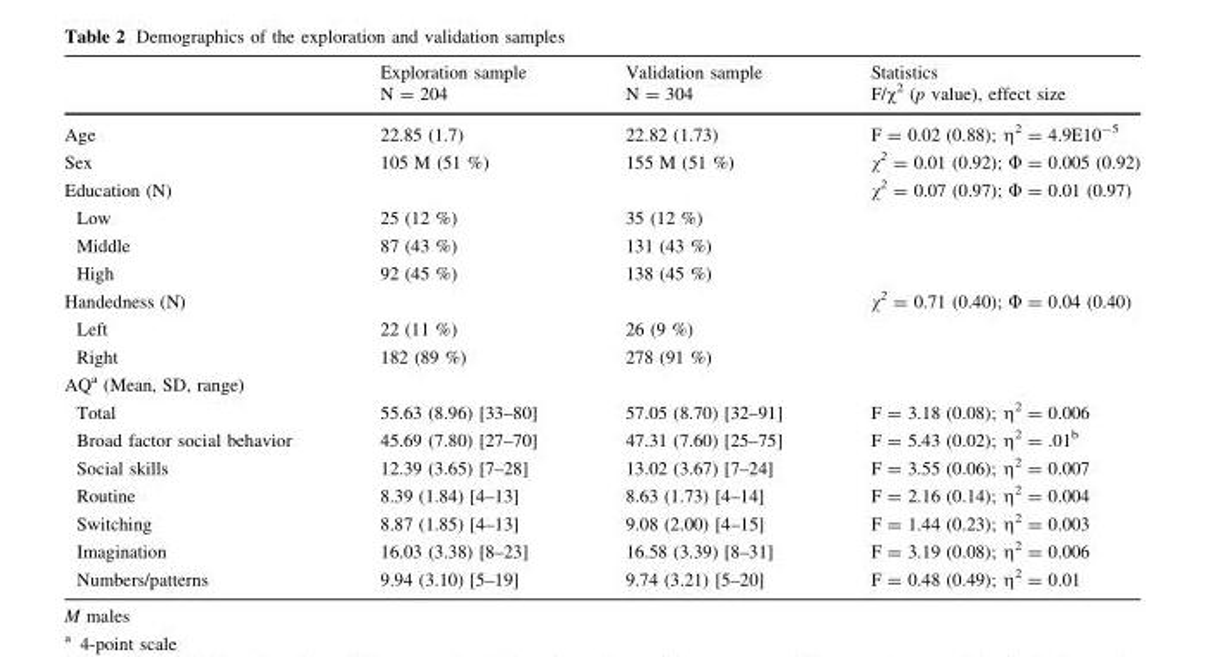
<table><thead><tr><td rowspan="2"></td><td rowspan="2">Exploration sample N = 204</td><td rowspan="2">Validation sample N = 304</td><td rowspan="2">Statistics F/χ<sup>2</sup> (p value), effect size</td></tr><tr></tr></thead><tbody><tr><td>Age</td><td>22.85 (1.7)</td><td>22.82 (1.73)</td><td>F = 0.02 (0.88); η<sup>2</sup> = 4.9E10<sup>-5</sup></td></tr><tr><td>Sex</td><td>105 M (51 %)</td><td>155 M (51 %)</td><td>χ<sup>2</sup> = 0.01 (0.92); Φ = 0.005 (0.92)</td></tr><tr><td>Education (N)</td><td></td><td></td><td>χ<sup>2</sup> = 0.07 (0.97); Φ = 0.01 (0.97)</td></tr><tr><td>Low</td><td>25 (12 %)</td><td>35 (12 %)</td><td></td></tr><tr><td>Middle</td><td>87 (43 %)</td><td>131 (43 %)</td><td></td></tr><tr><td>High</td><td>92 (45 %)</td><td>138 (45 %)</td><td></td></tr><tr><td>Handedness (N)</td><td></td><td></td><td>χ<sup>2</sup> = 0.71 (0.40); Φ = 0.04 (0.40)</td></tr><tr><td>Left</td><td>22 (11 %)</td><td>26 (9 %)</td><td></td></tr><tr><td>Right</td><td>182 (89 %)</td><td>278 (91 %)</td><td></td></tr><tr><td colspan="4">AQ<sup>a</sup> (Mean, SD, range)</td></tr><tr><td>Total</td><td>55.63 (8.96) [33–80]</td><td>57.05 (8.70) [32–91]</td><td>F = 3.18 (0.08); η<sup>2</sup> = 0.006</td></tr><tr><td>Broad factor social behavior</td><td>45.69 (7.80) [27–70]</td><td>47.31 (7.60) [25–75]</td><td>F = 5.43 (0.02); η<sup>2</sup> = .01<sup>b</sup></td></tr><tr><td>Social skills</td><td>12.39 (3.65) [7–28]</td><td>13.02 (3.67) [7–24]</td><td>F = 3.55 (0.06); η<sup>2</sup> = 0.007</td></tr><tr><td>Routine</td><td>8.39 (1.84) [4–13]</td><td>8.63 (1.73) [4–14]</td><td>F = 2.16 (0.14); η<sup>2</sup> = 0.004</td></tr><tr><td>Switching</td><td>8.87 (1.85) [4–13]</td><td>9.08 (2.00) [4–15]</td><td>F = 1.44 (0.23); η<sup>2</sup> = 0.003</td></tr><tr><td>Imagination</td><td>16.03 (3.38) [8–23]</td><td>16.58 (3.39) [8–31]</td><td>F = 3.19 (0.08); η<sup>2</sup> = 0.006</td></tr><tr><td>Numbers/patterns</td><td>9.94 (3.10) [5–19]</td><td>9.74 (3.21) [5–20]</td><td>F = 0.48 (0.49); η<sup>2</sup> = 0.01</td></tr></tbody></table>